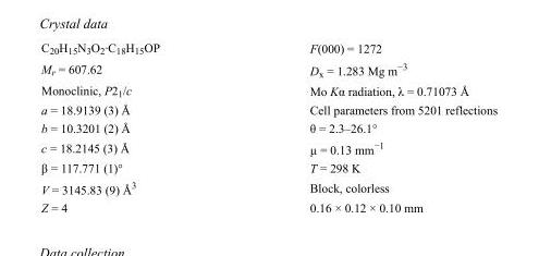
<table><tbody><tr><td>C<sub>20</sub>H<sub>15</sub>N<sub>3</sub>O<sub>2</sub>·C<sub>18</sub>H<sub>15</sub>OP</td><td>F(000) = 1272</td></tr><tr><td>M<sub>r</sub> = 607.62</td><td>D<sub>x</sub> = 1.283 Mg m<sup>−3</sup></td></tr><tr><td>Monoclinic, P2<sub>1</sub>/c</td><td>Mo Kα radiation, λ = 0.71073 Å</td></tr><tr><td>a = 18.9139 (3) Å</td><td>Cell parameters from 5201 reflections</td></tr><tr><td>b = 10.3201 (2) Å</td><td>θ = 2.3–26.1°</td></tr><tr><td>c = 18.2145 (3) Å</td><td>µ = 0.13 mm<sup>−1</sup></td></tr><tr><td>β = 117.771 (1)°</td><td>T = 298 K</td></tr><tr><td>V = 3145.83 (9) Å<sup>3</sup></td><td>Block, colorless</td></tr><tr><td>Z = 4</td><td>0.16 × 0.12 × 0.10 mm</td></tr></tbody></table>